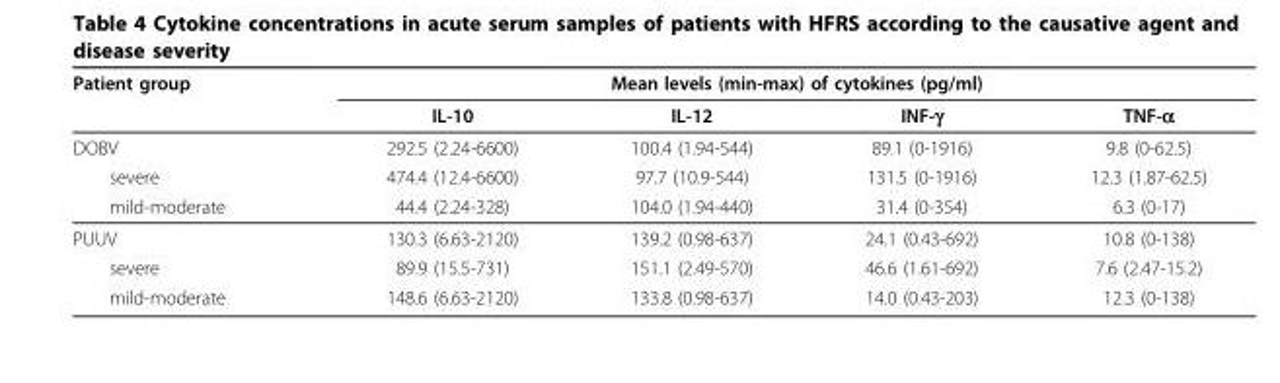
<table><thead><tr><td rowspan="2">Patient group</td><td colspan="4">Mean levels (min-max) of cytokines (pg/ml)</td></tr><tr><td>IL-10</td><td>IL-12</td><td>INF-γ</td><td>TNF-α</td></tr></thead><tbody><tr><td>DOBV</td><td>292.5 (2.24-6600)</td><td>100.4 (1.94-544)</td><td>89.1 (0-1916)</td><td>9.8 (0-62.5)</td></tr><tr><td>severe</td><td>474.4 (12.4-6600)</td><td>97.7 (10.9-544)</td><td>131.5 (0-1916)</td><td>12.3 (1.87-62.5)</td></tr><tr><td>mild-moderate</td><td>44.4 (2.24-328)</td><td>104.0 (1.94-440)</td><td>31.4 (0-354)</td><td>6.3 (0-17)</td></tr><tr><td>PUUV</td><td>130.3 (6.63-2120)</td><td>139.2 (0.98-637)</td><td>24.1 (0.43-692)</td><td>10.8 (0-138)</td></tr><tr><td>severe</td><td>89.9 (15.5-731)</td><td>151.1 (2.49-570)</td><td>46.6 (1.61-692)</td><td>7.6 (2.47-15.2)</td></tr><tr><td>mild-moderate</td><td>148.6 (6.63-2120)</td><td>133.8 (0.98-637)</td><td>14.0 (0.43-203)</td><td>12.3 (0-138)</td></tr></tbody></table>